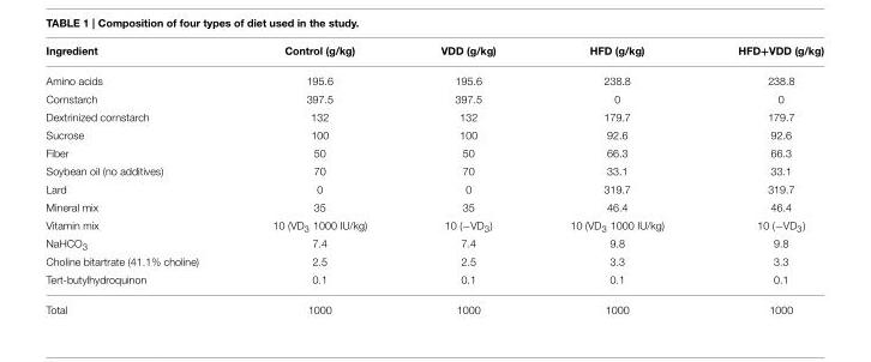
<table><thead><tr><td>Ingredient</td><td>Control (g/kg)</td><td>VDD (g/kg)</td><td>HFD (g/kg)</td><td>HFD+VDD (g/kg)</td></tr></thead><tbody><tr><td>Amino acids</td><td>195.6</td><td>195.6</td><td>238.8</td><td>238.8</td></tr><tr><td>Cornstarch</td><td>397.5</td><td>397.5</td><td>0</td><td>0</td></tr><tr><td>Dextrinized cornstarch</td><td>132</td><td>132</td><td>179.7</td><td>179.7</td></tr><tr><td>Sucrose</td><td>100</td><td>100</td><td>92.6</td><td>92.6</td></tr><tr><td>Fiber</td><td>50</td><td>50</td><td>66.3</td><td>66.3</td></tr><tr><td>Soybean oil (no additives)</td><td>70</td><td>70</td><td>33.1</td><td>33.1</td></tr><tr><td>Lard</td><td>0</td><td>0</td><td>319.7</td><td>319.7</td></tr><tr><td>Mineral mix</td><td>35</td><td>35</td><td>46.4</td><td>46.4</td></tr><tr><td>Vitamin mix</td><td>10 (VD<sub>3</sub> 1000 IU/kg)</td><td>10 (−VD<sub>3</sub>)</td><td>10 (VD<sub>3</sub> 1000 IU/kg)</td><td>10 (−VD<sub>3</sub>)</td></tr><tr><td>NaHCO<sub>3</sub></td><td>7.4</td><td>7.4</td><td>9.8</td><td>9.8</td></tr><tr><td>Choline bitartrate (41.1% choline)</td><td>2.5</td><td>2.5</td><td>3.3</td><td>3.3</td></tr><tr><td>Tert-butylhydroquinon</td><td>0.1</td><td>0.1</td><td>0.1</td><td>0.1</td></tr><tr><td>Total</td><td>1000</td><td>1000</td><td>1000</td><td>1000</td></tr></tbody></table>